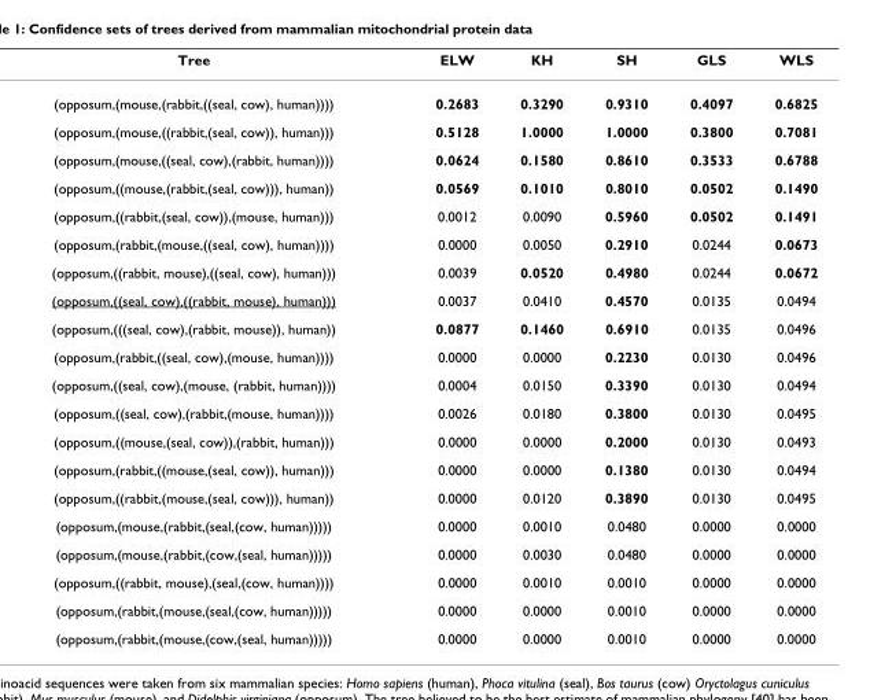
<table><thead><tr><td>Tree</td><td>ELW</td><td>KH</td><td>SH</td><td>GLS</td><td>WLS</td></tr></thead><tbody><tr><td>(opposum,(mouse,(rabbit,((seal, cow), human))))</td><td>0.2683</td><td>0.3290</td><td>0.9310</td><td>0.4097</td><td>0.6825</td></tr><tr><td>(opposum,(mouse,((rabbit,(seal, cow)), human)))</td><td>0.5128</td><td>1.0000</td><td>1.0000</td><td>0.3800</td><td>0.7081</td></tr><tr><td>(opposum,(mouse,((seal, cow),(rabbit, human))))</td><td>0.0624</td><td>0.1580</td><td>0.8610</td><td>0.3533</td><td>0.6788</td></tr><tr><td>(opposum,((mouse,(rabbit,(seal, cow))), human))</td><td>0.0569</td><td>0.1010</td><td>0.8010</td><td>0.0502</td><td>0.1490</td></tr><tr><td>(opposum,((rabbit,(seal, cow)),(mouse, human)))</td><td>0.0012</td><td>0.0090</td><td>0.5960</td><td>0.0502</td><td>0.1491</td></tr><tr><td>(opposum,(rabbit,(mouse,((seal, cow), human))))</td><td>0.0000</td><td>0.0050</td><td>0.2910</td><td>0.0244</td><td>0.0673</td></tr><tr><td>(opposum,((rabbit, mouse),((seal, cow), human)))</td><td>0.0039</td><td>0.0520</td><td>0.4980</td><td>0.0244</td><td>0.0672</td></tr><tr><td>(opposum,((seal, cow),((rabbit, mouse), human)))</td><td>0.0037</td><td>0.0410</td><td>0.4570</td><td>0.0135</td><td>0.0494</td></tr><tr><td>(opposum,(((seal, cow),(rabbit, mouse)), human))</td><td>0.0877</td><td>0.1460</td><td>0.6910</td><td>0.0135</td><td>0.0496</td></tr><tr><td>(opposum,(rabbit,((seal, cow),(mouse, human))))</td><td>0.0000</td><td>0.0000</td><td>0.2230</td><td>0.0130</td><td>0.0496</td></tr><tr><td>(opposum,((seal, cow),(mouse, (rabbit, human))))</td><td>0.0004</td><td>0.0150</td><td>0.3390</td><td>0.0130</td><td>0.0494</td></tr><tr><td>(opposum,((seal, cow),(rabbit,(mouse, human))))</td><td>0.0026</td><td>0.0180</td><td>0.3800</td><td>0.0130</td><td>0.0495</td></tr><tr><td>(opposum,((mouse,(seal, cow)),(rabbit, human)))</td><td>0.0000</td><td>0.0000</td><td>0.2000</td><td>0.0130</td><td>0.0493</td></tr><tr><td>(opposum,(rabbit,((mouse,(seal, cow)), human)))</td><td>0.0000</td><td>0.0000</td><td>0.1380</td><td>0.0130</td><td>0.0494</td></tr><tr><td>(opposum,((rabbit,(mouse,(seal, cow))), human))</td><td>0.0000</td><td>0.0120</td><td>0.3890</td><td>0.0130</td><td>0.0495</td></tr><tr><td>(opposum,(mouse,(rabbit,(seal,(cow, human)))))</td><td>0.0000</td><td>0.0010</td><td>0.0480</td><td>0.0000</td><td>0.0000</td></tr><tr><td>(opposum,(mouse,(rabbit,(cow,(seal, human)))))</td><td>0.0000</td><td>0.0030</td><td>0.0480</td><td>0.0000</td><td>0.0000</td></tr><tr><td>(opposum,((rabbit, mouse),(seal,(cow, human))))</td><td>0.0000</td><td>0.0010</td><td>0.0010</td><td>0.0000</td><td>0.0000</td></tr><tr><td>(opposum,(rabbit,(mouse,(seal,(cow, human)))))</td><td>0.0000</td><td>0.0000</td><td>0.0010</td><td>0.0000</td><td>0.0000</td></tr><tr><td>(opposum,(rabbit,(mouse,(cow,(seal, human)))))</td><td>0.0000</td><td>0.0000</td><td>0.0010</td><td>0.0000</td><td>0.0000</td></tr></tbody></table>